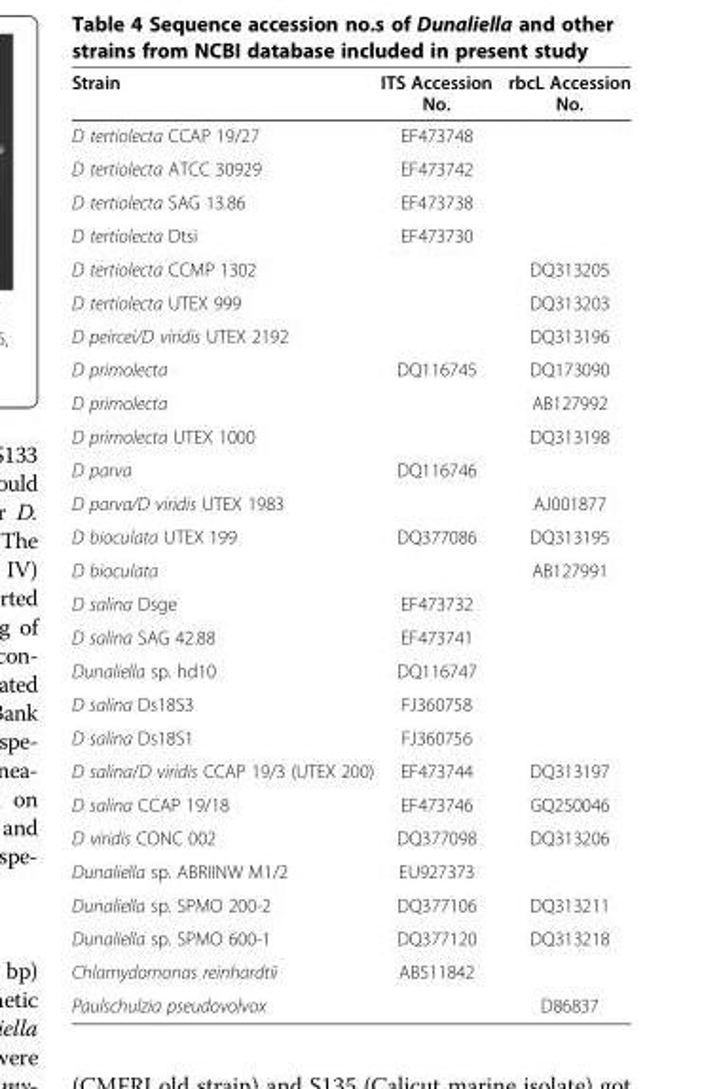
<table><thead><tr><td>Strain</td><td>ITS Accession No.</td><td>rbcL Accession No.</td></tr></thead><tbody><tr><td>D tertiolecta CCAP 19/27</td><td>EF473748</td><td></td></tr><tr><td>D tertiolecta ATCC 30929</td><td>EF473742</td><td></td></tr><tr><td>D tertiolecta SAG 13.86</td><td>EF473738</td><td></td></tr><tr><td>D tertiolecta Dtsi</td><td>EF473730</td><td></td></tr><tr><td>D tertiolecta CCMP 1302</td><td></td><td>DQ313205</td></tr><tr><td>D tertiolecta UTEX 999</td><td></td><td>DQ313203</td></tr><tr><td>D peircei/D viridis UTEX 2192</td><td></td><td>DQ313196</td></tr><tr><td>D primolecta</td><td>DQ116745</td><td>DQ173090</td></tr><tr><td>D primolecta</td><td></td><td>AB127992</td></tr><tr><td>D primolecta UTEX 1000</td><td></td><td>DQ313198</td></tr><tr><td>D parva</td><td>DQ116746</td><td></td></tr><tr><td>D parva/D viridis UTEX 1983</td><td></td><td>AJ001877</td></tr><tr><td>D bioculata UTEX 199</td><td>DQ377086</td><td>DQ313195</td></tr><tr><td>D bioculata</td><td></td><td>AB127991</td></tr><tr><td>D salina Dsge</td><td>EF473732</td><td></td></tr><tr><td>D salina SAG 42.88</td><td>EF473741</td><td></td></tr><tr><td>Dunaliella sp. hd10</td><td>DQ116747</td><td></td></tr><tr><td>D salina Ds18S3</td><td>FJ360758</td><td></td></tr><tr><td>D salina Ds18S1</td><td>FJ360756</td><td></td></tr><tr><td>D salina/D viridis CCAP 19/3 (UTEX 200)</td><td>EF473744</td><td>DQ313197</td></tr><tr><td>D salina CCAP 19/18</td><td>EF473746</td><td>GQ250046</td></tr><tr><td>D viridis CONC 002</td><td>DQ377098</td><td>DQ313206</td></tr><tr><td>Dunaliella sp. ABRIINW M1/2</td><td>EU927373</td><td></td></tr><tr><td>Dunaliella sp. SPMO 200-2</td><td>DQ377106</td><td>DQ313211</td></tr><tr><td>Dunaliella sp. SPMO 600-1</td><td>DQ377120</td><td>DQ313218</td></tr><tr><td>Chlamydomonas reinhardtii</td><td>AB511842</td><td></td></tr><tr><td>Paulschulzia pseudovolvox</td><td></td><td>D86837</td></tr></tbody></table>